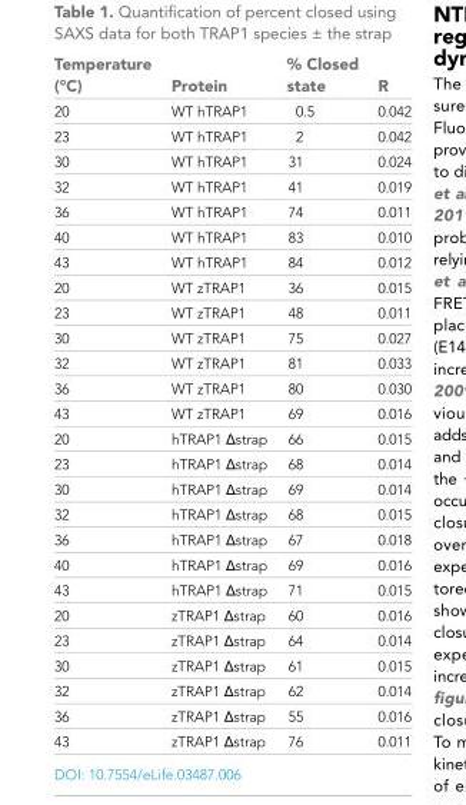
<table><thead><tr><td>Temperature (°C)</td><td>Protein</td><td>% Closed state</td><td>R</td></tr></thead><tbody><tr><td>20</td><td>WT hTRAP1</td><td>0.5</td><td>0.042</td></tr><tr><td>23</td><td>WT hTRAP1</td><td>2</td><td>0.042</td></tr><tr><td>30</td><td>WT hTRAP1</td><td>31</td><td>0.024</td></tr><tr><td>32</td><td>WT hTRAP1</td><td>41</td><td>0.019</td></tr><tr><td>36</td><td>WT hTRAP1</td><td>74</td><td>0.011</td></tr><tr><td>40</td><td>WT hTRAP1</td><td>83</td><td>0.010</td></tr><tr><td>43</td><td>WT hTRAP1</td><td>84</td><td>0.012</td></tr><tr><td>20</td><td>WT zTRAP1</td><td>36</td><td>0.015</td></tr><tr><td>23</td><td>WT zTRAP1</td><td>48</td><td>0.011</td></tr><tr><td>30</td><td>WT zTRAP1</td><td>75</td><td>0.027</td></tr><tr><td>32</td><td>WT zTRAP1</td><td>81</td><td>0.033</td></tr><tr><td>36</td><td>WT zTRAP1</td><td>80</td><td>0.030</td></tr><tr><td>43</td><td>WT zTRAP1</td><td>69</td><td>0.016</td></tr><tr><td>20</td><td>hTRAP1 Δstrap</td><td>66</td><td>0.015</td></tr><tr><td>23</td><td>hTRAP1 Δstrap</td><td>68</td><td>0.014</td></tr><tr><td>30</td><td>hTRAP1 Δstrap</td><td>69</td><td>0.014</td></tr><tr><td>32</td><td>hTRAP1 Δstrap</td><td>68</td><td>0.015</td></tr><tr><td>36</td><td>hTRAP1 Δstrap</td><td>67</td><td>0.018</td></tr><tr><td>40</td><td>hTRAP1 Δstrap</td><td>69</td><td>0.016</td></tr><tr><td>43</td><td>hTRAP1 Δstrap</td><td>71</td><td>0.015</td></tr><tr><td>20</td><td>zTRAP1 Δstrap</td><td>60</td><td>0.016</td></tr><tr><td>23</td><td>zTRAP1 Δstrap</td><td>64</td><td>0.014</td></tr><tr><td>30</td><td>zTRAP1 Δstrap</td><td>61</td><td>0.015</td></tr><tr><td>32</td><td>zTRAP1 Δstrap</td><td>62</td><td>0.014</td></tr><tr><td>36</td><td>zTRAP1 Δstrap</td><td>55</td><td>0.016</td></tr><tr><td>43</td><td>zTRAP1 Δstrap</td><td>76</td><td>0.011</td></tr></tbody></table>